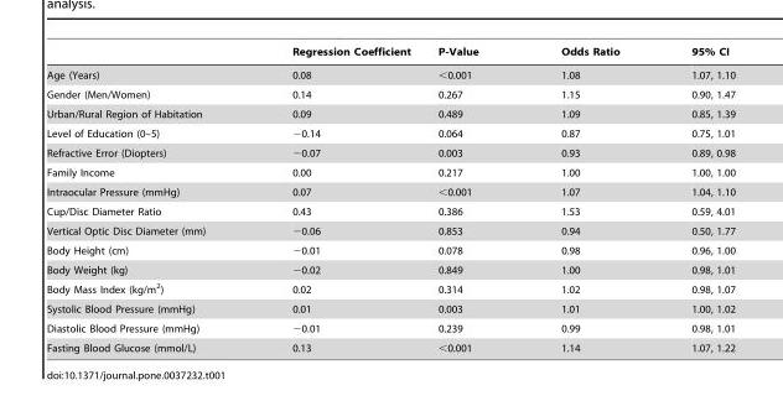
<table><thead><tr><td></td><td>Regression Coefficient</td><td>P-Value</td><td>Odds Ratio</td><td>95% CI</td></tr></thead><tbody><tr><td>Age (Years)</td><td>0.08</td><td>&lt;0.001</td><td>1.08</td><td>1.07, 1.10</td></tr><tr><td>Gender (Men/Women)</td><td>0.14</td><td>0.267</td><td>1.15</td><td>0.90, 1.47</td></tr><tr><td>Urban/Rural Region of Habitation</td><td>0.09</td><td>0.489</td><td>1.09</td><td>0.85, 1.39</td></tr><tr><td>Level of Education (0–5)</td><td>−0.14</td><td>0.064</td><td>0.87</td><td>0.75, 1.01</td></tr><tr><td>Refractive Error (Diopters)</td><td>−0.07</td><td>0.003</td><td>0.93</td><td>0.89, 0.98</td></tr><tr><td>Family Income</td><td>0.00</td><td>0.217</td><td>1.00</td><td>1.00, 1.00</td></tr><tr><td>Intraocular Pressure (mmHg)</td><td>0.07</td><td>&lt;0.001</td><td>1.07</td><td>1.04, 1.10</td></tr><tr><td>Cup/Disc Diameter Ratio</td><td>0.43</td><td>0.386</td><td>1.53</td><td>0.59, 4.01</td></tr><tr><td>Vertical Optic Disc Diameter (mm)</td><td>−0.06</td><td>0.853</td><td>0.94</td><td>0.50, 1.77</td></tr><tr><td>Body Height (cm)</td><td>−0.01</td><td>0.078</td><td>0.98</td><td>0.96, 1.00</td></tr><tr><td>Body Weight (kg)</td><td>−0.02</td><td>0.849</td><td>1.00</td><td>0.98, 1.01</td></tr><tr><td>Body Mass Index (kg/m<sup>2</sup>)</td><td>0.02</td><td>0.314</td><td>1.02</td><td>0.98, 1.07</td></tr><tr><td>Systolic Blood Pressure (mmHg)</td><td>0.01</td><td>0.003</td><td>1.01</td><td>1.00, 1.02</td></tr><tr><td>Diastolic Blood Pressure (mmHg)</td><td>−0.01</td><td>0.239</td><td>0.99</td><td>0.98, 1.01</td></tr><tr><td>Fasting Blood Glucose (mmol/L)</td><td>0.13</td><td>&lt;0.001</td><td>1.14</td><td>1.07, 1.22</td></tr></tbody></table>